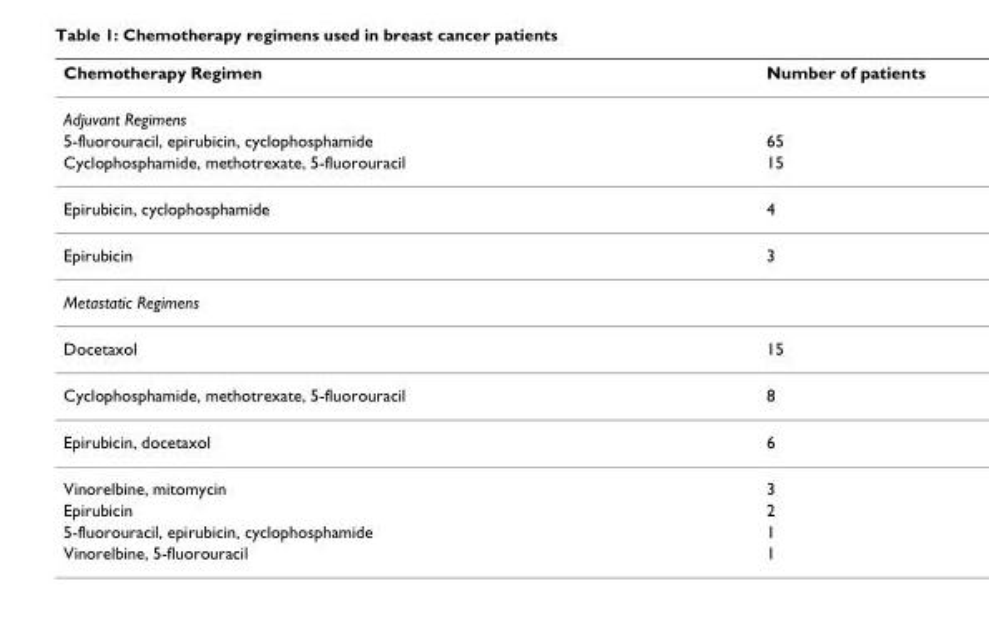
<table><thead><tr><td>Chemotherapy Regimen</td><td>Number of patients</td></tr></thead><tbody><tr><td colspan="2">Adjuvant Regimens</td></tr><tr><td>5-fluorouracil, epirubicin, cyclophosphamide</td><td>65</td></tr><tr><td>Cyclophosphamide, methotrexate, 5-fluorouracil</td><td>15</td></tr><tr><td>Epirubicin, cyclophosphamide</td><td>4</td></tr><tr><td>Epirubicin</td><td>3</td></tr><tr><td colspan="2">Metastatic Regimens</td></tr><tr><td>Docetaxol</td><td>15</td></tr><tr><td>Cyclophosphamide, methotrexate, 5-fluorouracil</td><td>8</td></tr><tr><td>Epirubicin, docetaxol</td><td>6</td></tr><tr><td>Vinorelbine, mitomycin</td><td>3</td></tr><tr><td>Epirubicin</td><td>2</td></tr><tr><td>5-fluorouracil, epirubicin, cyclophosphamide</td><td>1</td></tr><tr><td>Vinorelbine, 5-fluorouracil</td><td>1</td></tr></tbody></table>